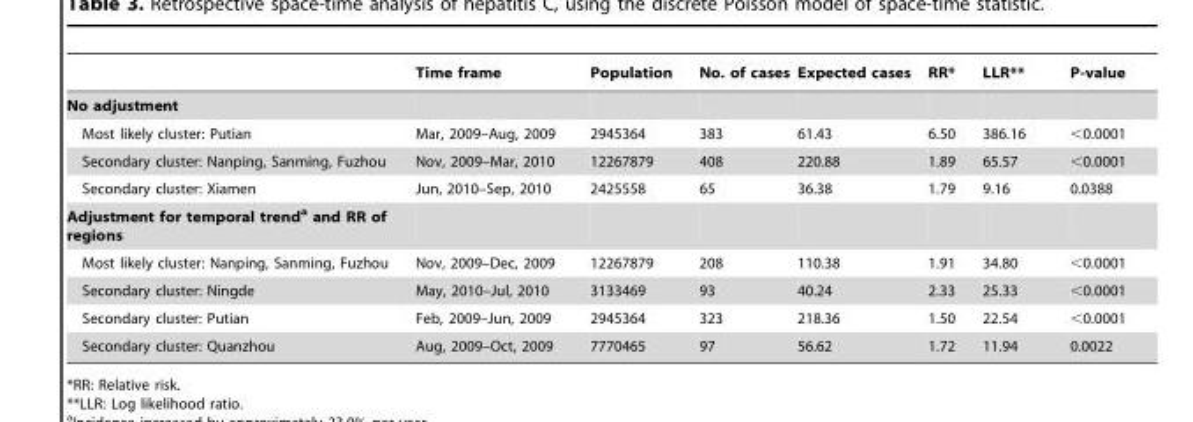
<table><thead><tr><td></td><td>Time frame</td><td>Population</td><td>No. of cases</td><td>Expected cases</td><td>RR*</td><td>LLR**</td><td>P-value</td></tr></thead><tbody><tr><td colspan="8">No adjustment</td></tr><tr><td>Most likely cluster: Putian</td><td>Mar, 2009–Aug, 2009</td><td>2945364</td><td>383</td><td>61.43</td><td>6.50</td><td>386.16</td><td>&lt;0.0001</td></tr><tr><td>Secondary cluster: Nanping, Sanming, Fuzhou</td><td>Nov, 2009–Mar, 2010</td><td>12267879</td><td>408</td><td>220.88</td><td>1.89</td><td>65.57</td><td>&lt;0.0001</td></tr><tr><td>Secondary cluster: Xiamen</td><td>Jun, 2010–Sep, 2010</td><td>2425558</td><td>65</td><td>36.38</td><td>1.79</td><td>9.16</td><td>0.0388</td></tr><tr><td colspan="8">Adjustment for temporal trenda and RR of regions</td></tr><tr><td>Most likely cluster: Nanping, Sanming, Fuzhou</td><td>Nov, 2009–Dec, 2009</td><td>12267879</td><td>208</td><td>110.38</td><td>1.91</td><td>34.80</td><td>&lt;0.0001</td></tr><tr><td>Secondary cluster: Ningde</td><td>May, 2010–Jul, 2010</td><td>3133469</td><td>93</td><td>40.24</td><td>2.33</td><td>25.33</td><td>&lt;0.0001</td></tr><tr><td>Secondary cluster: Putian</td><td>Feb, 2009–Jun, 2009</td><td>2945364</td><td>323</td><td>218.36</td><td>1.50</td><td>22.54</td><td>&lt;0.0001</td></tr><tr><td>Secondary cluster: Quanzhou</td><td>Aug, 2009–Oct, 2009</td><td>7770465</td><td>97</td><td>56.62</td><td>1.72</td><td>11.94</td><td>0.0022</td></tr></tbody></table>